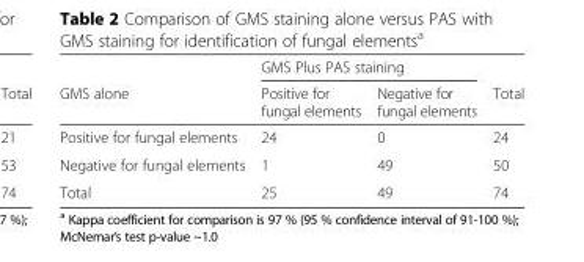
<table><thead><tr><td rowspan="2">GMS alone</td><td colspan="2">GMS Plus PAS staining</td><td rowspan="2">Total</td></tr><tr><td>Positive for fungal elements</td><td>Negative for fungal elements</td></tr></thead><tbody><tr><td>Positive for fungal elements</td><td>24</td><td>0</td><td>24</td></tr><tr><td>Negative for fungal elements</td><td>1</td><td>49</td><td>50</td></tr><tr><td>Total</td><td>25</td><td>49</td><td>74</td></tr></tbody></table>